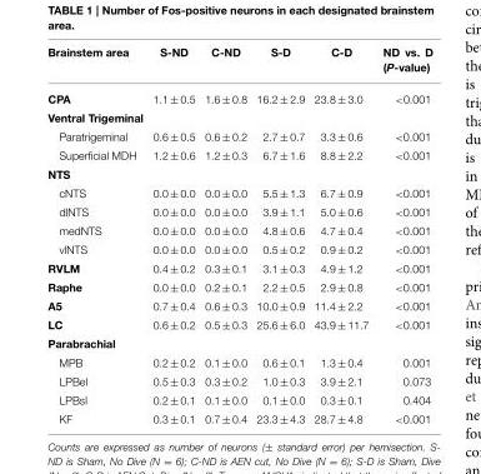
<table><thead><tr><td>Brainstem area</td><td>S-ND</td><td>C-ND</td><td>S-D</td><td>C-D</td><td>ND vs. D (P-value)</td></tr></thead><tbody><tr><td>CPA</td><td>1.1 ± 0.5</td><td>1.6 ± 0.8</td><td>16.2 ± 2.9</td><td>23.8 ± 3.0</td><td>&lt;0.001</td></tr><tr><td colspan="6">Ventral Trigeminal</td></tr><tr><td>Paratrigeminal</td><td>0.6 ± 0.5</td><td>0.6 ± 0.2</td><td>2.7 ± 0.7</td><td>3.3 ± 0.6</td><td>&lt;0.001</td></tr><tr><td>Superficial MDH</td><td>1.2 ± 0.6</td><td>1.2 ± 0.3</td><td>6.7 ± 1.6</td><td>8.8 ± 2.2</td><td>&lt;0.001</td></tr><tr><td colspan="6">NTS</td></tr><tr><td>cNTS</td><td>0.0 ± 0.0</td><td>0.0 ± 0.0</td><td>5.5 ± 1.3</td><td>6.7 ± 0.9</td><td>&lt;0.001</td></tr><tr><td>dlNTS</td><td>0.0 ± 0.0</td><td>0.0 ± 0.0</td><td>3.9 ± 1.1</td><td>5.0 ± 0.6</td><td>&lt;0.001</td></tr><tr><td>medNTS</td><td>0.0 ± 0.0</td><td>0.0 ± 0.0</td><td>4.8 ± 0.6</td><td>4.7 ± 0.4</td><td>&lt;0.001</td></tr><tr><td>vlNTS</td><td>0.0 ± 0.0</td><td>0.0 ± 0.0</td><td>0.5 ± 0.2</td><td>0.9 ± 0.2</td><td>&lt;0.001</td></tr><tr><td>RVLM</td><td>0.4 ± 0.2</td><td>0.3 ± 0.1</td><td>3.1 ± 0.3</td><td>4.9 ± 1.2</td><td>&lt;0.001</td></tr><tr><td>Raphe</td><td>0.0 ± 0.0</td><td>0.2 ± 0.1</td><td>2.2 ± 0.5</td><td>2.9 ± 0.8</td><td>&lt;0.001</td></tr><tr><td>A5</td><td>0.7 ± 0.4</td><td>0.6 ± 0.3</td><td>10.0 ± 0.9</td><td>11.4 ± 2.2</td><td>&lt;0.001</td></tr><tr><td>LC</td><td>0.6 ± 0.2</td><td>0.5 ± 0.3</td><td>25.6 ± 6.0</td><td>43.9 ± 11.7</td><td>&lt;0.001</td></tr><tr><td colspan="6">Parabrachial</td></tr><tr><td>MPB</td><td>0.2 ± 0.2</td><td>0.1 ± 0.0</td><td>0.6 ± 0.1</td><td>1.3 ± 0.4</td><td>0.001</td></tr><tr><td>LPBel</td><td>0.5 ± 0.3</td><td>0.3 ± 0.2</td><td>1.0 ± 0.3</td><td>3.9 ± 2.1</td><td>0.073</td></tr><tr><td>LPBsl</td><td>0.2 ± 0.1</td><td>0.1 ± 0.0</td><td>0.1 ± 0.0</td><td>0.3 ± 0.1</td><td>0.404</td></tr><tr><td>KF</td><td>0.3 ± 0.1</td><td>0.7 ± 0.4</td><td>23.3 ± 4.3</td><td>28.7 ± 4.8</td><td>&lt;0.001</td></tr></tbody></table>